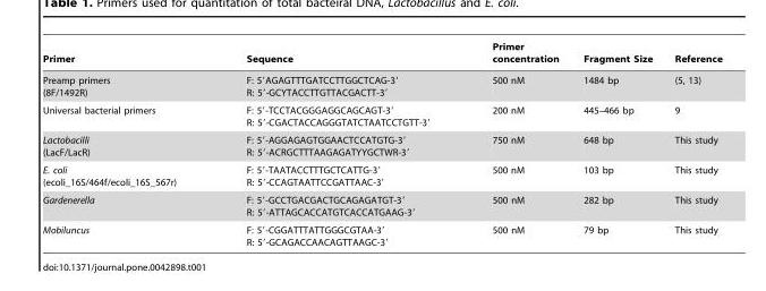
<table><thead><tr><td>Primer</td><td>Sequence</td><td>Primer concentration</td><td>Fragment Size</td><td>Reference</td></tr></thead><tbody><tr><td>Preamp primers (8F/1492R)</td><td>F: 5′AGAGTTTGATCCTTGGCTCAG-3′ R: 5′-GCYTACCTTGTTACGACTT-3′</td><td>500 nM</td><td>1484 bp</td><td>(5, 13)</td></tr><tr><td>Universal bacterial primers</td><td>F: 5′-TCCTACGGGAGGCAGCAGT-3′ R: 5′-CGACTACCAGGGTATCTAATCCTGTT-3′</td><td>200 nM</td><td>445–466 bp</td><td>9</td></tr><tr><td>Lactobacilli (LacF/LacR)</td><td>F: 5′-AGGAGAGTGGAACTCCATGTG-3′ R: 5′-ACRGCTTTAAGAGATYYGCTWR-3′</td><td>750 nM</td><td>648 bp</td><td>This study</td></tr><tr><td>E. coli (ecoli_16S/464f/ecoli_16S_567r)</td><td>F: 5′-TAATACCTTTGCTCATTG-3′ R: 5′-CCAGTAATTCCGATTAAC-3′</td><td>500 nM</td><td>103 bp</td><td>This study</td></tr><tr><td>Gardenerella</td><td>F: 5′-GCCTGACGACTGCAGAGATGT-3′ R: 5′-ATTAGCACCATGTCACCATGAAG-3′</td><td>500 nM</td><td>282 bp</td><td>This study</td></tr><tr><td>Mobiluncus</td><td>F: 5′-CGGATTTATTGGGCGTAA-3′ R: 5′-GCAGACCAACAGTTAAGC-3′</td><td>500 nM</td><td>79 bp</td><td>This study</td></tr></tbody></table>